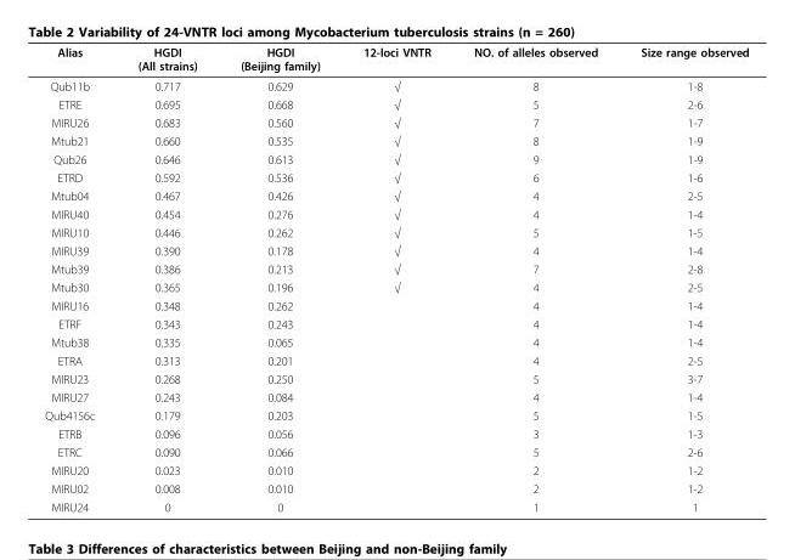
<table><thead><tr><td>Alias</td><td>HGDI (All strains)</td><td>HGDI (Beijing family)</td><td>12-loci VNTR</td><td>NO. of alleles observed</td><td>Size range observed</td></tr></thead><tbody><tr><td>Qub11b</td><td>0.717</td><td>0.629</td><td>√</td><td>8</td><td>1-8</td></tr><tr><td>ETRE</td><td>0.695</td><td>0.668</td><td>√</td><td>5</td><td>2-6</td></tr><tr><td>MIRU26</td><td>0.683</td><td>0.560</td><td>√</td><td>7</td><td>1-7</td></tr><tr><td>Mtub21</td><td>0.660</td><td>0.535</td><td>√</td><td>8</td><td>1-9</td></tr><tr><td>Qub26</td><td>0.646</td><td>0.613</td><td>√</td><td>9</td><td>1-9</td></tr><tr><td>ETRD</td><td>0.592</td><td>0.536</td><td>√</td><td>6</td><td>1-6</td></tr><tr><td>Mtub04</td><td>0.467</td><td>0.426</td><td>√</td><td>4</td><td>2-5</td></tr><tr><td>MIRU40</td><td>0.454</td><td>0.276</td><td>√</td><td>4</td><td>1-4</td></tr><tr><td>MIRU10</td><td>0.446</td><td>0.262</td><td>√</td><td>5</td><td>1-5</td></tr><tr><td>MIRU39</td><td>0.390</td><td>0.178</td><td>√</td><td>4</td><td>1-4</td></tr><tr><td>Mtub39</td><td>0.386</td><td>0.213</td><td>√</td><td>7</td><td>2-8</td></tr><tr><td>Mtub30</td><td>0.365</td><td>0.196</td><td>√</td><td>4</td><td>2-5</td></tr><tr><td>MIRU16</td><td>0.348</td><td>0.262</td><td></td><td>4</td><td>1-4</td></tr><tr><td>ETRF</td><td>0.343</td><td>0.243</td><td></td><td>4</td><td>1-4</td></tr><tr><td>Mtub38</td><td>0.335</td><td>0.065</td><td></td><td>4</td><td>1-4</td></tr><tr><td>ETRA</td><td>0.313</td><td>0.201</td><td></td><td>4</td><td>2-5</td></tr><tr><td>MIRU23</td><td>0.268</td><td>0.250</td><td></td><td>5</td><td>3-7</td></tr><tr><td>MIRU27</td><td>0.243</td><td>0.084</td><td></td><td>4</td><td>1-4</td></tr><tr><td>Qub4156c</td><td>0.179</td><td>0.203</td><td></td><td>5</td><td>1-5</td></tr><tr><td>ETRB</td><td>0.096</td><td>0.056</td><td></td><td>3</td><td>1-3</td></tr><tr><td>ETRC</td><td>0.090</td><td>0.066</td><td></td><td>5</td><td>2-6</td></tr><tr><td>MIRU20</td><td>0.023</td><td>0.010</td><td></td><td>2</td><td>1-2</td></tr><tr><td>MIRU02</td><td>0.008</td><td>0.010</td><td></td><td>2</td><td>1-2</td></tr><tr><td>MIRU24</td><td>0</td><td>0</td><td></td><td>1</td><td>1</td></tr></tbody></table>